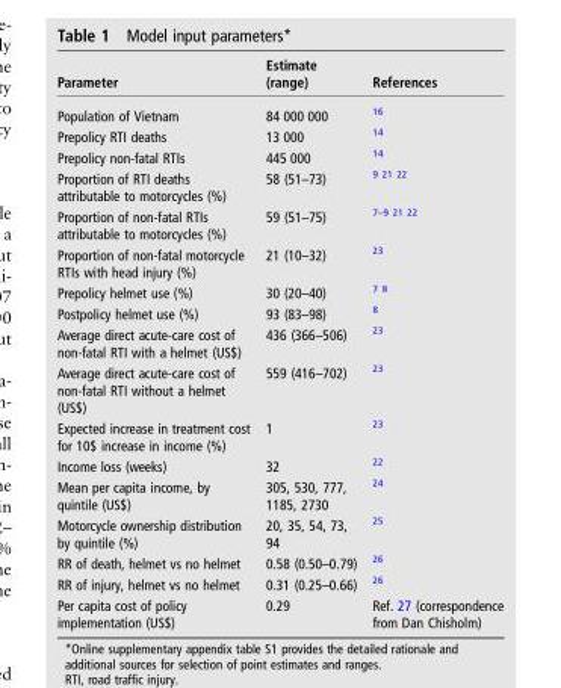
<table><thead><tr><td>Parameter</td><td>Estimate (range)</td><td>References</td></tr></thead><tbody><tr><td>Population of Vietnam</td><td>84 000 000</td><td>16</td></tr><tr><td>Prepolicy RTI deaths</td><td>13 000</td><td>14</td></tr><tr><td>Prepolicy non-fatal RTIs</td><td>445 000</td><td>14</td></tr><tr><td>Proportion of RTI deaths attributable to motorcycles (%)</td><td>58 (51–73)</td><td>9 21 22</td></tr><tr><td>Proportion of non-fatal RTIs attributable to motorcycles (%)</td><td>59 (51–75)</td><td>7–9 21 22</td></tr><tr><td>Proportion of non-fatal motorcycle RTIs with head injury (%)</td><td>21 (10–32)</td><td>23</td></tr><tr><td>Prepolicy helmet use (%)</td><td>30 (20–40)</td><td>7 8</td></tr><tr><td>Postpolicy helmet use (%)</td><td>93 (83–98)</td><td>8</td></tr><tr><td>Average direct acute-care cost of non-fatal RTI with a helmet (US$)</td><td>436 (366–506)</td><td>23</td></tr><tr><td>Average direct acute-care cost of non-fatal RTI without a helmet (US$)</td><td>559 (416–702)</td><td>23</td></tr><tr><td>Expected increase in treatment cost for 10$ increase in income (%)</td><td>1</td><td>23</td></tr><tr><td>Income loss (weeks)</td><td>32</td><td>22</td></tr><tr><td>Mean per capita income, by quintile (US$)</td><td>305, 530, 777, 1185, 2730</td><td>24</td></tr><tr><td>Motorcycle ownership distribution by quintile (%)</td><td>20, 35, 54, 73, 94</td><td>25</td></tr><tr><td>RR of death, helmet vs no helmet</td><td>0.58 (0.50–0.79)</td><td>26</td></tr><tr><td>RR of injury, helmet vs no helmet</td><td>0.31 (0.25–0.66)</td><td>26</td></tr><tr><td>Per capita cost of policy implementation (US$)</td><td>0.29</td><td>Ref. 27 (correspondence from Dan Chisholm)</td></tr></tbody></table>